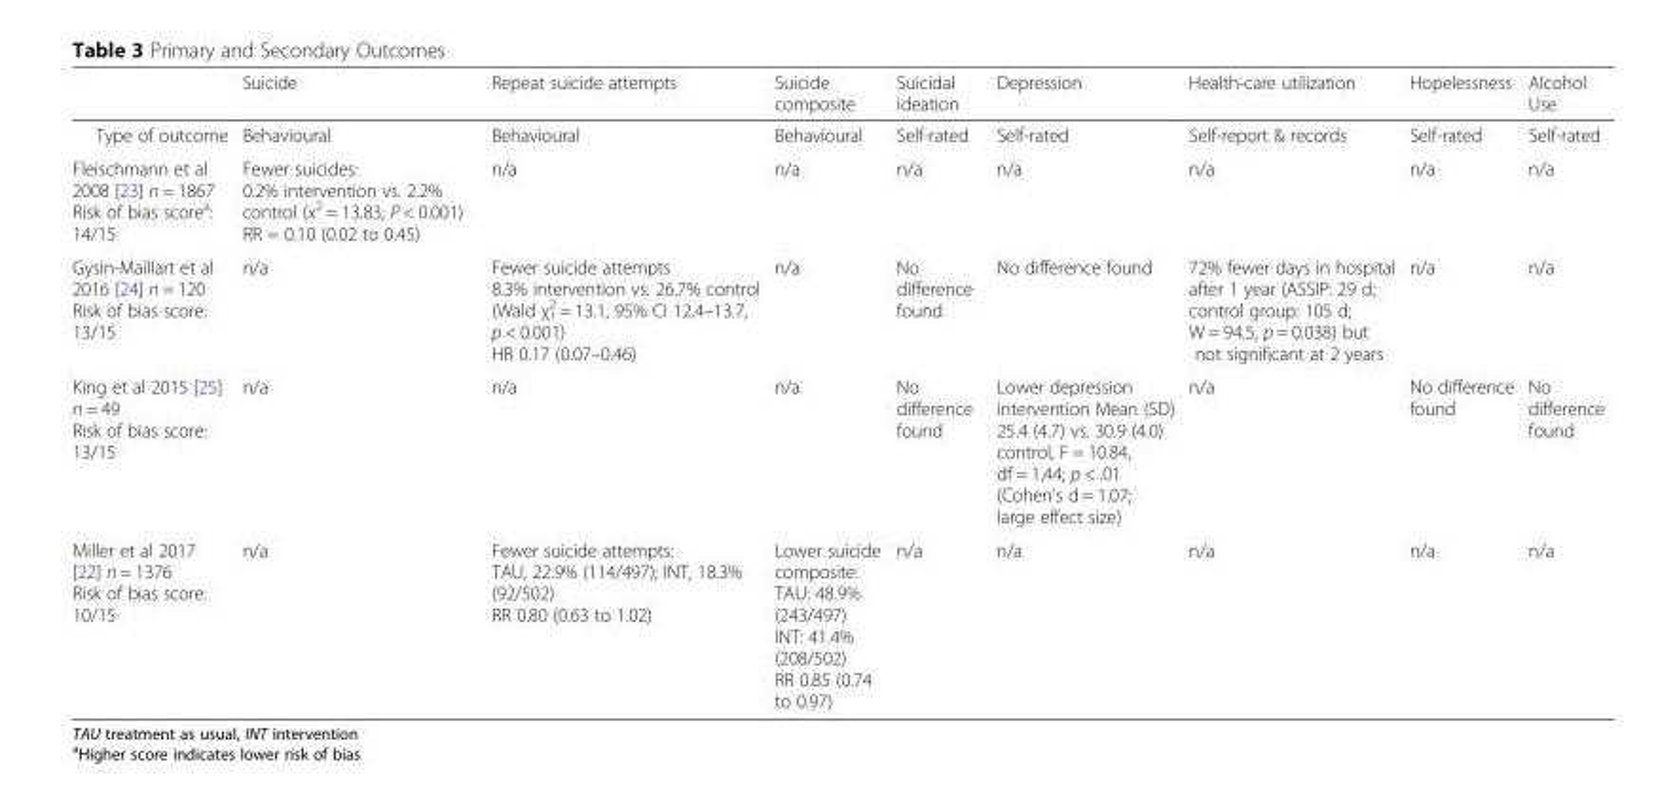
<table><thead><tr><td></td><td>Suicide</td><td>Repeat suicide attempts</td><td>Suicide composite</td><td>Suicidal ideation</td><td>Depression</td><td>Health-care utilization</td><td>Hopelessness</td><td>Alcohol Use</td></tr></thead><tbody><tr><td>Type of outcome</td><td>Behavioural</td><td>Behavioural</td><td>Behavioural</td><td>Self-rated</td><td>Self-rated</td><td>Self-report &amp; records</td><td>Self-rated</td><td>Self-rated</td></tr><tr><td>Fleischmann et al 2008 [23] n = 1867 Risk of bias score<sup>a</sup>: 14/15</td><td>Fewer suicides: 0.2% intervention vs. 2.2% control (x<sup>2</sup> = 13.83; P &lt; 0.001) RR = 0.10 (0.02 to 0.45)</td><td>n/a</td><td>n/a</td><td>n/a</td><td>n/a</td><td>n/a</td><td>n/a</td><td>n/a</td></tr><tr><td>Gysin-Maillart et al 2016 [24] n = 120 Risk of bias score: 13/15</td><td>n/a</td><td>Fewer suicide attempts 8.3% intervention vs. 26.7% control (Wald χ<sup>2</sup> <sub>1</sub> = 13.1, 95% CI 12.4–13.7, p &lt; 0.001) HR 0.17 (0.07–0.46)</td><td>n/a</td><td>No difference found</td><td>No difference found</td><td>72% fewer days in hospital after 1 year (ASSIP: 29 d; control group: 105 d; W = 94.5, p = 0.038) but not significant at 2 years</td><td>n/a</td><td>n/a</td></tr><tr><td>King et al 2015 [25] n = 49 Risk of bias score: 13/15</td><td>n/a</td><td>n/a</td><td>n/a</td><td>No difference found</td><td>Lower depression intervention Mean (SD) 25.4 (4.7) vs. 30.9 (4.0) control, F = 10.84, df = 1,44; p &lt; .01 (Cohen’s d = 1.07; large effect size)</td><td>n/a</td><td>No difference found</td><td>No difference found</td></tr><tr><td>Miller et al 2017 [22] n = 1376 Risk of bias score: 10/15</td><td>n/a</td><td>Fewer suicide attempts: TAU, 22.9% (114/497); INT, 18.3% (92/502) RR 0.80 (0.63 to 1.02)</td><td>Lower suicide composite: TAU: 48.9% (243/497) INT: 41.4% (208/502) RR 0.85 (0.74 to 0.97)</td><td>n/a</td><td>n/a</td><td>n/a</td><td>n/a</td><td>n/a</td></tr></tbody></table>